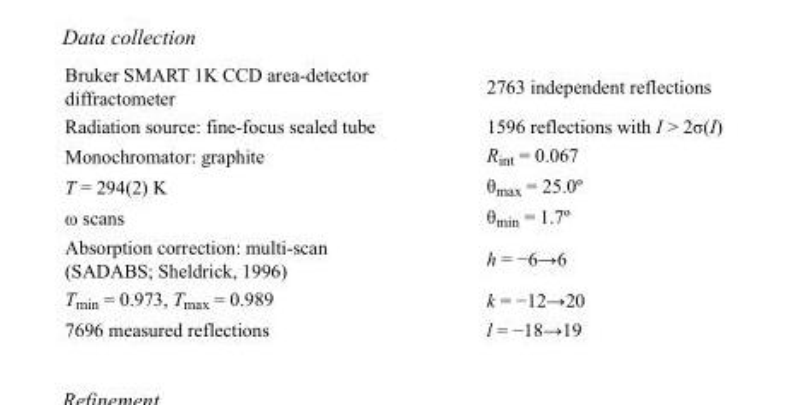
<table><tbody><tr><td>Bruker SMART 1K CCD area-detector diffractometer</td><td>2763 independent reflections</td></tr><tr><td>Radiation source: fine-focus sealed tube</td><td>1596 reflections with I &gt; 2σ(I)</td></tr><tr><td>Monochromator: graphite</td><td>R<sub>int</sub> = 0.067</td></tr><tr><td>T = 294(2) K</td><td>θ<sub>max</sub> = 25.0º</td></tr><tr><td>ω scans</td><td>θ<sub>min</sub> = 1.7º</td></tr><tr><td>Absorption correction: multi-scan (SADABS; Sheldrick, 1996)</td><td>h = −6→6</td></tr><tr><td>T<sub>min</sub> = 0.973, T<sub>max</sub> = 0.989</td><td>k = −12→20</td></tr><tr><td>7696 measured reflections</td><td>l = −18→19</td></tr></tbody></table>